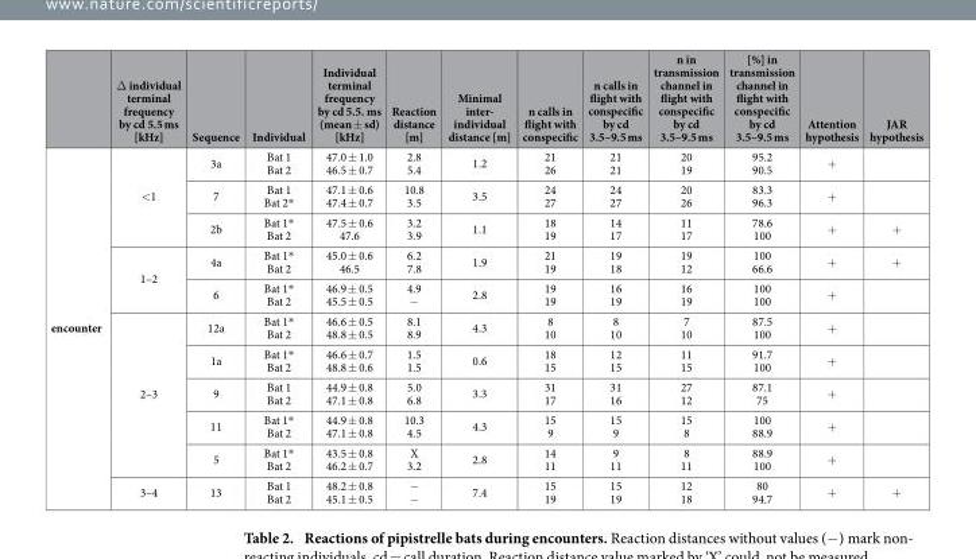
<table><thead><tr><td></td><td>Δ individual terminal frequency by cd 5.5 ms [kHz]</td><td>Sequence</td><td>Individual</td><td>Individual terminal frequency by cd 5.5. ms (mean ± sd) [kHz]</td><td>Reaction distance [m]</td><td>Minimal inter- individual distance [m]</td><td>n calls in flight with conspecific</td><td>n calls in flight with conspecific by cd 3.5–9.5 ms</td><td>n in transmission channel in flight with conspecific by cd 3.5–9.5 ms</td><td>[%] in transmission channel in flight with conspecific by cd 3.5–9.5 ms</td><td>Attention hypothesis</td><td>JAR hypothesis</td></tr></thead><tbody><tr><td rowspan="11">encounter</td><td rowspan="3">&lt; 1</td><td>3a</td><td>Bat 1 Bat 2</td><td>47.0 ± 1.0 46.5 ± 0.7</td><td>2.8 5.4</td><td>1.2</td><td>21 26</td><td>21 21</td><td>20 19</td><td>95.2 90.5</td><td>+</td><td></td></tr><tr><td>7</td><td>Bat 1 Bat 2*</td><td>47.1 ± 0.6 47.4 ± 0.7</td><td>10.8 3.5</td><td>3.5</td><td>24 27</td><td>24 27</td><td>20 26</td><td>83.3 96.3</td><td>+</td><td></td></tr><tr><td>2b</td><td>Bat 1* Bat 2</td><td>47.5 ± 0.6 47.6</td><td>3.2 3.9</td><td>1.1</td><td>18 19</td><td>14 17</td><td>11 17</td><td>78.6 100</td><td>+</td><td>+</td></tr><tr><td rowspan="2">1–2</td><td>4a</td><td>Bat 1* Bat 2</td><td>45.0 ± 0.6 46.5</td><td>6.2 7.8</td><td>1.9</td><td>21 19</td><td>19 18</td><td>19 12</td><td>100 66.6</td><td>+</td><td>+</td></tr><tr><td>6</td><td>Bat 1* Bat 2</td><td>46.9 ± 0.5 45.5 ± 0.5</td><td>4.9 −</td><td>2.8</td><td>19 19</td><td>16 19</td><td>16 19</td><td>100 100</td><td>+</td><td></td></tr><tr><td rowspan="5">2–3</td><td>12a</td><td>Bat 1* Bat 2</td><td>46.6 ± 0.5 48.8 ± 0.5</td><td>8.1 8.9</td><td>4.3</td><td>8 10</td><td>8 10</td><td>7 10</td><td>87.5 100</td><td>+</td><td></td></tr><tr><td>1a</td><td>Bat 1* Bat 2</td><td>46.6 ± 0.7 48.8 ± 0.6</td><td>1.5 1.5</td><td>0.6</td><td>18 15</td><td>12 15</td><td>11 15</td><td>91.7 100</td><td>+</td><td></td></tr><tr><td>9</td><td>Bat 1 Bat 2</td><td>44.9 ± 0.8 47.1 ± 0.8</td><td>5.0 6.8</td><td>3.3</td><td>31 17</td><td>31 16</td><td>27 12</td><td>87.1 75</td><td>+</td><td></td></tr><tr><td>11</td><td>Bat 1* Bat 2</td><td>44.9 ± 0.8 47.1 ± 0.8</td><td>10.3 4.5</td><td>4.3</td><td>15 9</td><td>15 9</td><td>15 8</td><td>100 88.9</td><td>+</td><td></td></tr><tr><td>5</td><td>Bat 1* Bat 2</td><td>43.5 ± 0.8 46.2 ± 0.7</td><td>X 3.2</td><td>2.8</td><td>14 11</td><td>9 11</td><td>8 11</td><td>88.9 100</td><td>+</td><td></td></tr><tr><td>3–4</td><td>13</td><td>Bat 1 Bat 2</td><td>48.2 ± 0.8 45.1 ± 0.5</td><td>− −</td><td>7.4</td><td>15 19</td><td>15 19</td><td>12 18</td><td>80 94.7</td><td>+</td><td>+</td></tr></tbody></table>